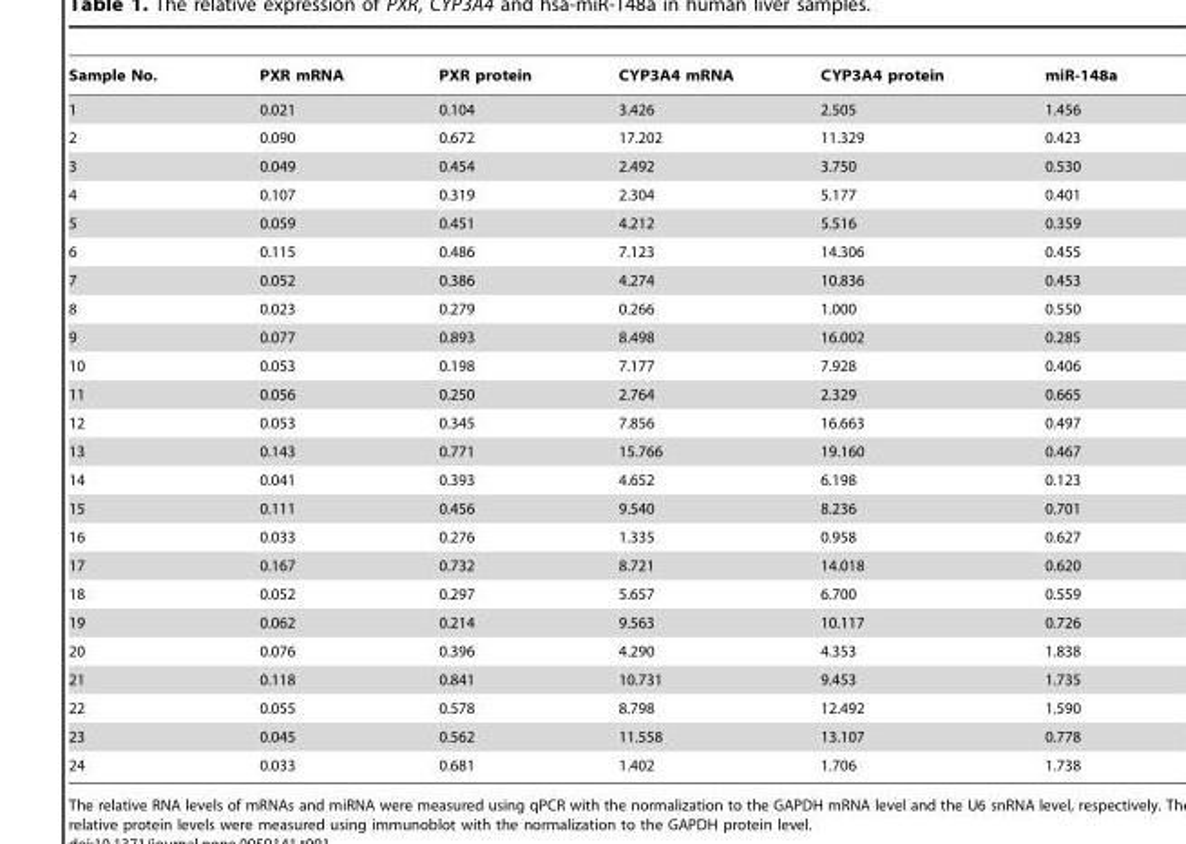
<table><thead><tr><td>Sample No.</td><td>PXR mRNA</td><td>PXR protein</td><td>CYP3A4 mRNA</td><td>CYP3A4 protein</td><td>miR-148a</td></tr></thead><tbody><tr><td>1</td><td>0.021</td><td>0.104</td><td>3.426</td><td>2.505</td><td>1.456</td></tr><tr><td>2</td><td>0.090</td><td>0.672</td><td>17.202</td><td>11.329</td><td>0.423</td></tr><tr><td>3</td><td>0.049</td><td>0.454</td><td>2.492</td><td>3.750</td><td>0.530</td></tr><tr><td>4</td><td>0.107</td><td>0.319</td><td>2.304</td><td>5.177</td><td>0.401</td></tr><tr><td>5</td><td>0.059</td><td>0.451</td><td>4.212</td><td>5.516</td><td>0.359</td></tr><tr><td>6</td><td>0.115</td><td>0.486</td><td>7.123</td><td>14.306</td><td>0.455</td></tr><tr><td>7</td><td>0.052</td><td>0.386</td><td>4.274</td><td>10.836</td><td>0.453</td></tr><tr><td>8</td><td>0.023</td><td>0.279</td><td>0.266</td><td>1.000</td><td>0.550</td></tr><tr><td>9</td><td>0.077</td><td>0.893</td><td>8.498</td><td>16.002</td><td>0.285</td></tr><tr><td>10</td><td>0.053</td><td>0.198</td><td>7.177</td><td>7.928</td><td>0.406</td></tr><tr><td>11</td><td>0.056</td><td>0.250</td><td>2.764</td><td>2.329</td><td>0.665</td></tr><tr><td>12</td><td>0.053</td><td>0.345</td><td>7.856</td><td>16.663</td><td>0.497</td></tr><tr><td>13</td><td>0.143</td><td>0.771</td><td>15.766</td><td>19.160</td><td>0.467</td></tr><tr><td>14</td><td>0.041</td><td>0.393</td><td>4.652</td><td>6.198</td><td>0.123</td></tr><tr><td>15</td><td>0.111</td><td>0.456</td><td>9.540</td><td>8.236</td><td>0.701</td></tr><tr><td>16</td><td>0.033</td><td>0.276</td><td>1.335</td><td>0.958</td><td>0.627</td></tr><tr><td>17</td><td>0.167</td><td>0.732</td><td>8.721</td><td>14.018</td><td>0.620</td></tr><tr><td>18</td><td>0.052</td><td>0.297</td><td>5.657</td><td>6.700</td><td>0.559</td></tr><tr><td>19</td><td>0.062</td><td>0.214</td><td>9.563</td><td>10.117</td><td>0.726</td></tr><tr><td>20</td><td>0.076</td><td>0.396</td><td>4.290</td><td>4.353</td><td>1.838</td></tr><tr><td>21</td><td>0.118</td><td>0.841</td><td>10.731</td><td>9.453</td><td>1.735</td></tr><tr><td>22</td><td>0.055</td><td>0.578</td><td>8.798</td><td>12.492</td><td>1.590</td></tr><tr><td>23</td><td>0.045</td><td>0.562</td><td>11.558</td><td>13.107</td><td>0.778</td></tr><tr><td>24</td><td>0.033</td><td>0.681</td><td>1.402</td><td>1.706</td><td>1.738</td></tr></tbody></table>